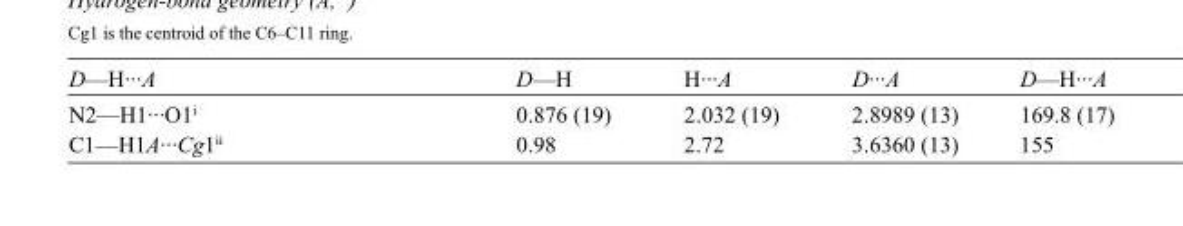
<table><tbody><tr><td>D—H···A</td><td>D—H</td><td>H···A</td><td>D···A</td><td>D—H···A</td></tr><tr><td>N2—H1···O1<sup>i</sup></td><td>0.876 (19)</td><td>2.032 (19)</td><td>2.8989 (13)</td><td>169.8 (17)</td></tr><tr><td>C1—H1A···Cg1<sup>ii</sup></td><td>0.98</td><td>2.72</td><td>3.6360 (13)</td><td>155</td></tr></tbody></table>